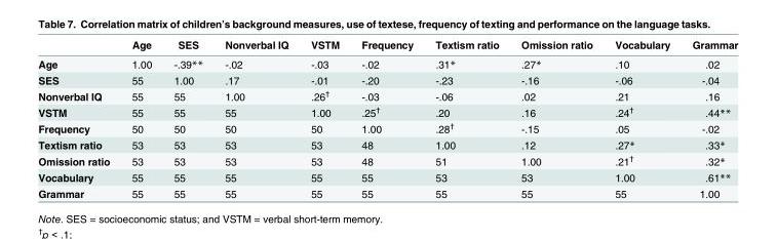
<table><thead><tr><td></td><td>Age</td><td>SES</td><td>Nonverbal IQ</td><td>VSTM</td><td>Frequency</td><td>Textism ratio</td><td>Omission ratio</td><td>Vocabulary</td><td>Grammar</td></tr></thead><tbody><tr><td>Age</td><td>1.00</td><td>-.39**</td><td>-.02</td><td>-.03</td><td>-.02</td><td>.31*</td><td>.27*</td><td>.10</td><td>.02</td></tr><tr><td>SES</td><td>55</td><td>1.00</td><td>.17</td><td>-.01</td><td>-.20</td><td>-.23</td><td>-.16</td><td>-.06</td><td>-.04</td></tr><tr><td>Nonverbal IQ</td><td>55</td><td>55</td><td>1.00</td><td>.26<sup>†</sup></td><td>-.03</td><td>-.06</td><td>.02</td><td>.21</td><td>.16</td></tr><tr><td>VSTM</td><td>55</td><td>55</td><td>55</td><td>1.00</td><td>.25<sup>†</sup></td><td>.20</td><td>.16</td><td>.24<sup>†</sup></td><td>.44**</td></tr><tr><td>Frequency</td><td>50</td><td>50</td><td>50</td><td>50</td><td>1.00</td><td>.28<sup>†</sup></td><td>-.15</td><td>.05</td><td>-.02</td></tr><tr><td>Textism ratio</td><td>53</td><td>53</td><td>53</td><td>53</td><td>48</td><td>1.00</td><td>.12</td><td>.27*</td><td>.33*</td></tr><tr><td>Omission ratio</td><td>53</td><td>53</td><td>53</td><td>53</td><td>48</td><td>51</td><td>1.00</td><td>.21<sup>†</sup></td><td>.32*</td></tr><tr><td>Vocabulary</td><td>55</td><td>55</td><td>55</td><td>55</td><td>55</td><td>53</td><td>53</td><td>1.00</td><td>.61**</td></tr><tr><td>Grammar</td><td>55</td><td>55</td><td>55</td><td>55</td><td>55</td><td>55</td><td>55</td><td>55</td><td>1.00</td></tr></tbody></table>